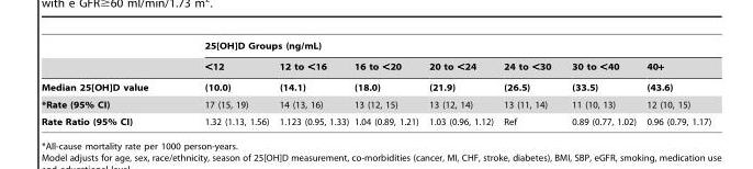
<table><thead><tr><td rowspan="2"></td><td colspan="7">25[OH]D Groups (ng/mL)</td></tr><tr><td>&lt;12</td><td>12 to &lt;16</td><td>16 to &lt;20</td><td>20 to &lt;24</td><td>24 to &lt;30</td><td>30 to &lt;40</td><td>40+</td></tr></thead><tbody><tr><td>Median 25[OH]D value</td><td>(10.0)</td><td>(14.1)</td><td>(18.0)</td><td>(21.9)</td><td>(26.5)</td><td>(33.5)</td><td>(43.6)</td></tr><tr><td>*Rate (95% CI)</td><td>17 (15, 19)</td><td>14 (13, 16)</td><td>13 (12, 15)</td><td>13 (12, 14)</td><td>13 (11, 14)</td><td>11 (10, 13)</td><td>12 (10, 15)</td></tr><tr><td>Rate Ratio (95% CI)</td><td>1.32 (1.13, 1.56)</td><td>1.123 (0.95, 1.33)</td><td>1.04 (0.89, 1.21)</td><td>1.03 (0.96, 1.12)</td><td>Ref</td><td>0.89 (0.77, 1.02)</td><td>0.96 (0.79, 1.17)</td></tr></tbody></table>